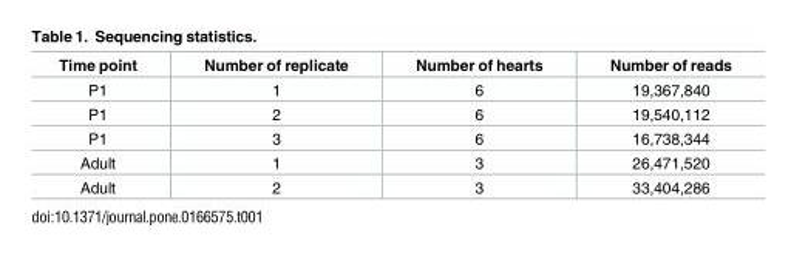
<table><thead><tr><td>Time point</td><td>Number of replicate</td><td>Number of hearts</td><td>Number of reads</td></tr></thead><tbody><tr><td>P1</td><td>1</td><td>6</td><td>19,367,840</td></tr><tr><td>P1</td><td>2</td><td>6</td><td>19,540,112</td></tr><tr><td>P1</td><td>3</td><td>6</td><td>16,738,344</td></tr><tr><td>Adult</td><td>1</td><td>3</td><td>26,471,520</td></tr><tr><td>Adult</td><td>2</td><td>3</td><td>33,404,286</td></tr></tbody></table>